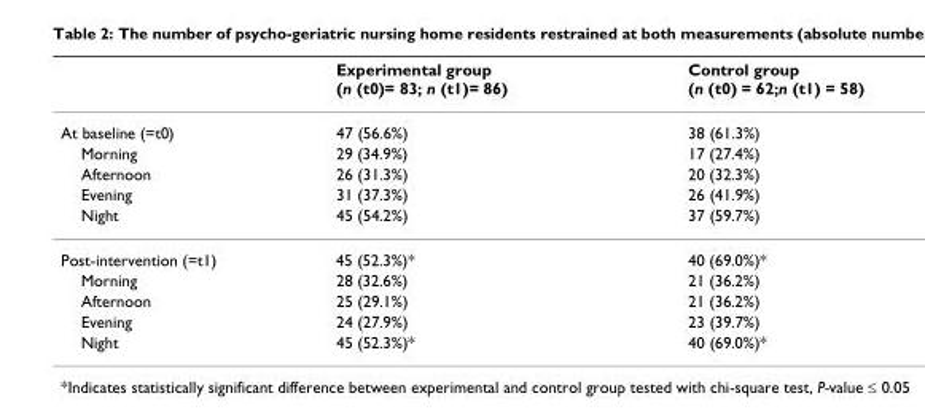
<table><thead><tr><td></td><td>Experimental group (n (t0)= 83; n (t1)= 86)</td><td>Control group (n (t0) = 62;n (t1) = 58)</td></tr></thead><tbody><tr><td>At baseline (=t0)</td><td>47 (56.6%)</td><td>38 (61.3%)</td></tr><tr><td>Morning</td><td>29 (34.9%)</td><td>17 (27.4%)</td></tr><tr><td>Afternoon</td><td>26 (31.3%)</td><td>20 (32.3%)</td></tr><tr><td>Evening</td><td>31 (37.3%)</td><td>26 (41.9%)</td></tr><tr><td>Night</td><td>45 (54.2%)</td><td>37 (59.7%)</td></tr><tr><td>Post-intervention (=t1)</td><td>45 (52.3%)*</td><td>40 (69.0%)*</td></tr><tr><td>Morning</td><td>28 (32.6%)</td><td>21 (36.2%)</td></tr><tr><td>Afternoon</td><td>25 (29.1%)</td><td>21 (36.2%)</td></tr><tr><td>Evening</td><td>24 (27.9%)</td><td>23 (39.7%)</td></tr><tr><td>Night</td><td>45 (52.3%)*</td><td>40 (69.0%)*</td></tr></tbody></table>